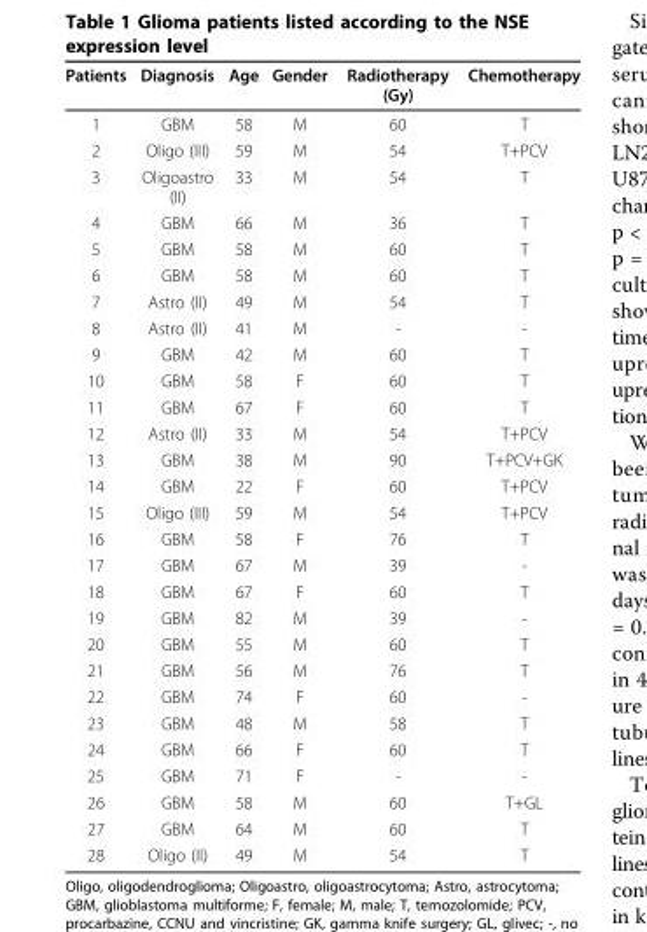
<table><thead><tr><td>Patients</td><td>Diagnosis</td><td>Age</td><td>Gender</td><td>Radiotherapy (Gy)</td><td>Chemotherapy</td></tr></thead><tbody><tr><td>1</td><td>GBM</td><td>58</td><td>M</td><td>60</td><td>T</td></tr><tr><td>2</td><td>Oligo (III)</td><td>59</td><td>M</td><td>54</td><td>T+PCV</td></tr><tr><td>3</td><td>Oligoastro (II)</td><td>33</td><td>M</td><td>54</td><td>T</td></tr><tr><td>4</td><td>GBM</td><td>66</td><td>M</td><td>36</td><td>T</td></tr><tr><td>5</td><td>GBM</td><td>58</td><td>M</td><td>60</td><td>T</td></tr><tr><td>6</td><td>GBM</td><td>58</td><td>M</td><td>60</td><td>T</td></tr><tr><td>7</td><td>Astro (II)</td><td>49</td><td>M</td><td>54</td><td>T</td></tr><tr><td>8</td><td>Astro (II)</td><td>41</td><td>M</td><td>-</td><td>-</td></tr><tr><td>9</td><td>GBM</td><td>42</td><td>M</td><td>60</td><td>T</td></tr><tr><td>10</td><td>GBM</td><td>58</td><td>F</td><td>60</td><td>T</td></tr><tr><td>11</td><td>GBM</td><td>67</td><td>F</td><td>60</td><td>T</td></tr><tr><td>12</td><td>Astro (II)</td><td>33</td><td>M</td><td>54</td><td>T+PCV</td></tr><tr><td>13</td><td>GBM</td><td>38</td><td>M</td><td>90</td><td>T+PCV+GK</td></tr><tr><td>14</td><td>GBM</td><td>22</td><td>F</td><td>60</td><td>T+PCV</td></tr><tr><td>15</td><td>Oligo (III)</td><td>59</td><td>M</td><td>54</td><td>T+PCV</td></tr><tr><td>16</td><td>GBM</td><td>58</td><td>F</td><td>76</td><td>T</td></tr><tr><td>17</td><td>GBM</td><td>67</td><td>M</td><td>39</td><td>-</td></tr><tr><td>18</td><td>GBM</td><td>67</td><td>F</td><td>60</td><td>T</td></tr><tr><td>19</td><td>GBM</td><td>82</td><td>M</td><td>39</td><td>-</td></tr><tr><td>20</td><td>GBM</td><td>55</td><td>M</td><td>60</td><td>T</td></tr><tr><td>21</td><td>GBM</td><td>56</td><td>M</td><td>76</td><td>T</td></tr><tr><td>22</td><td>GBM</td><td>74</td><td>F</td><td>60</td><td>-</td></tr><tr><td>23</td><td>GBM</td><td>48</td><td>M</td><td>58</td><td>T</td></tr><tr><td>24</td><td>GBM</td><td>66</td><td>F</td><td>60</td><td>T</td></tr><tr><td>25</td><td>GBM</td><td>71</td><td>F</td><td>-</td><td>-</td></tr><tr><td>26</td><td>GBM</td><td>58</td><td>M</td><td>60</td><td>T+GL</td></tr><tr><td>27</td><td>GBM</td><td>64</td><td>M</td><td>60</td><td>T</td></tr><tr><td>28</td><td>Oligo (II)</td><td>49</td><td>M</td><td>54</td><td>T</td></tr></tbody></table>